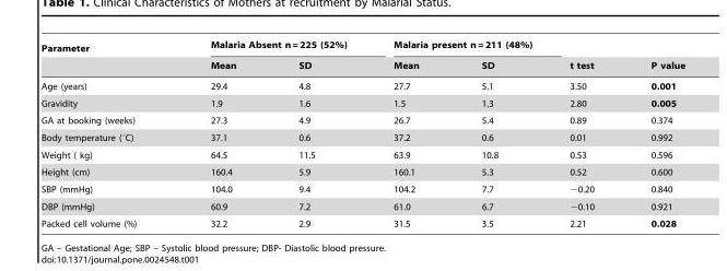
<table><thead><tr><td rowspan="2">Parameter</td><td colspan="2">Malaria Absent n = 225 (52%)</td><td colspan="2">Malaria present n = 211 (48%)</td><td rowspan="2">t test</td><td rowspan="2">P value</td></tr><tr><td>Mean</td><td>SD</td><td>Mean</td><td>SD</td></tr></thead><tbody><tr><td>Age (years)</td><td>29.4</td><td>4.8</td><td>27.7</td><td>5.1</td><td>3.50</td><td>0.001</td></tr><tr><td>Gravidity</td><td>1.9</td><td>1.6</td><td>1.5</td><td>1.3</td><td>2.80</td><td>0.005</td></tr><tr><td>GA at booking (weeks)</td><td>27.3</td><td>4.9</td><td>26.7</td><td>5.4</td><td>0.89</td><td>0.374</td></tr><tr><td>Body temperature (°C)</td><td>37.1</td><td>0.6</td><td>37.2</td><td>0.6</td><td>0.01</td><td>0.992</td></tr><tr><td>Weight ( kg)</td><td>64.5</td><td>11.5</td><td>63.9</td><td>10.8</td><td>0.53</td><td>0.596</td></tr><tr><td>Height (cm)</td><td>160.4</td><td>5.9</td><td>160.1</td><td>5.3</td><td>0.52</td><td>0.600</td></tr><tr><td>SBP (mmHg)</td><td>104.0</td><td>9.4</td><td>104.2</td><td>7.7</td><td>−0.20</td><td>0.840</td></tr><tr><td>DBP (mmHg)</td><td>60.9</td><td>7.2</td><td>61.0</td><td>6.7</td><td>−0.10</td><td>0.921</td></tr><tr><td>Packed cell volume (%)</td><td>32.2</td><td>2.9</td><td>31.5</td><td>3.5</td><td>2.21</td><td>0.028</td></tr></tbody></table>